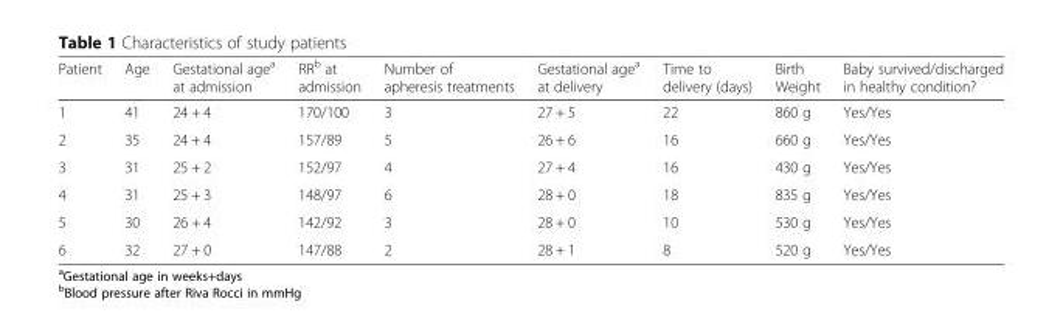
<table><thead><tr><td>Patient</td><td>Age</td><td>Gestational age<sup>a</sup> at admission</td><td>RR<sup>b</sup> at admission</td><td>Number of apheresis treatments</td><td>Gestational age<sup>a</sup> at delivery</td><td>Time to delivery (days)</td><td>Birth Weight</td><td>Baby survived/discharged in healthy condition?</td></tr></thead><tbody><tr><td>1</td><td>41</td><td>24 + 4</td><td>170/100</td><td>3</td><td>27 + 5</td><td>22</td><td>860 g</td><td>Yes/Yes</td></tr><tr><td>2</td><td>35</td><td>24 + 4</td><td>157/89</td><td>5</td><td>26 + 6</td><td>16</td><td>660 g</td><td>Yes/Yes</td></tr><tr><td>3</td><td>31</td><td>25 + 2</td><td>152/97</td><td>4</td><td>27 + 4</td><td>16</td><td>430 g</td><td>Yes/Yes</td></tr><tr><td>4</td><td>31</td><td>25 + 3</td><td>148/97</td><td>6</td><td>28 + 0</td><td>18</td><td>835 g</td><td>Yes/Yes</td></tr><tr><td>5</td><td>30</td><td>26 + 4</td><td>142/92</td><td>3</td><td>28 + 0</td><td>10</td><td>530 g</td><td>Yes/Yes</td></tr><tr><td>6</td><td>32</td><td>27 + 0</td><td>147/88</td><td>2</td><td>28 + 1</td><td>8</td><td>520 g</td><td>Yes/Yes</td></tr></tbody></table>